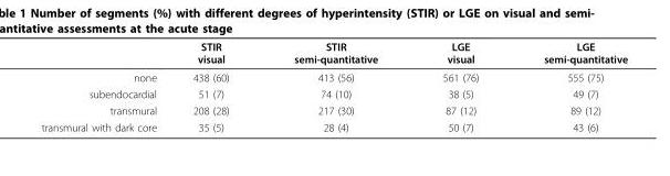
<table><thead><tr><td></td><td>STIR visual</td><td>STIR semi-quantitative</td><td>LGE visual</td><td>LGE semi-quantitative</td></tr></thead><tbody><tr><td>none</td><td>438 (60)</td><td>413 (56)</td><td>561 (76)</td><td>555 (75)</td></tr><tr><td>subendocardial</td><td>51 (7)</td><td>74 (10)</td><td>38 (5)</td><td>49 (7)</td></tr><tr><td>transmural</td><td>208 (28)</td><td>217 (30)</td><td>87 (12)</td><td>89 (12)</td></tr><tr><td>transmural with dark core</td><td>35 (5)</td><td>28 (4)</td><td>50 (7)</td><td>43 (6)</td></tr></tbody></table>